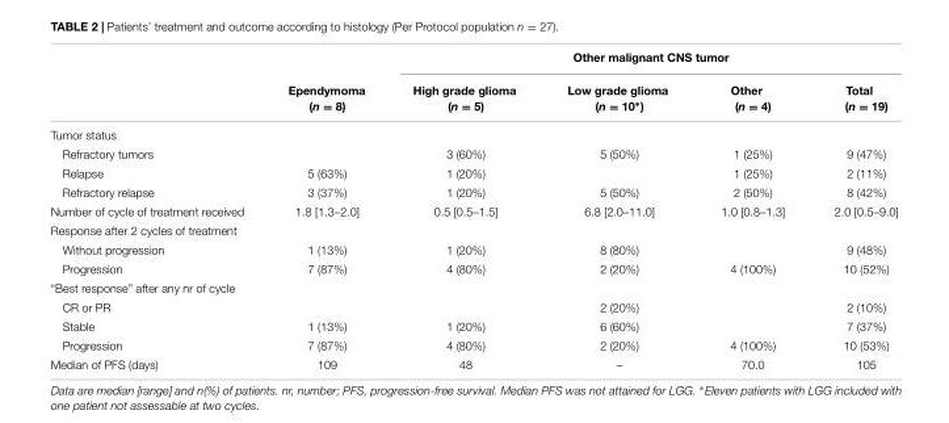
<table><thead><tr><td rowspan="2"></td><td rowspan="2">Ependymoma (n = 8)</td><td colspan="4">Other malignant CNS tumor</td></tr><tr><td>High grade glioma (n = 5)</td><td>Low grade glioma (n = 10∗)</td><td>Other (n = 4)</td><td>Total (n = 19)</td></tr></thead><tbody><tr><td colspan="6">Tumor status</td></tr><tr><td>Refractory tumors</td><td></td><td>3 (60%)</td><td>5 (50%)</td><td>1 (25%)</td><td>9 (47%)</td></tr><tr><td>Relapse</td><td>5 (63%)</td><td>1 (20%)</td><td></td><td>1 (25%)</td><td>2 (11%)</td></tr><tr><td>Refractory relapse</td><td>3 (37%)</td><td>1 (20%)</td><td>5 (50%)</td><td>2 (50%)</td><td>8 (42%)</td></tr><tr><td>Number of cycle of treatment received</td><td>1.8 [1.3–2.0]</td><td>0.5 [0.5–1.5]</td><td>6.8 [2.0–11.0]</td><td>1.0 [0.8–1.3]</td><td>2.0 [0.5–9.0]</td></tr><tr><td colspan="6">Response after 2 cycles of treatment</td></tr><tr><td>Without progression</td><td>1 (13%)</td><td>1 (20%)</td><td>8 (80%)</td><td></td><td>9 (48%)</td></tr><tr><td>Progression</td><td>7 (87%)</td><td>4 (80%)</td><td>2 (20%)</td><td>4 (100%)</td><td>10 (52%)</td></tr><tr><td colspan="6">“Best response” after any nr of cycle</td></tr><tr><td>CR or PR</td><td></td><td></td><td>2 (20%)</td><td></td><td>2 (10%)</td></tr><tr><td>Stable</td><td>1 (13%)</td><td>1 (20%)</td><td>6 (60%)</td><td></td><td>7 (37%)</td></tr><tr><td>Progression</td><td>7 (87%)</td><td>4 (80%)</td><td>2 (20%)</td><td>4 (100%)</td><td>10 (53%)</td></tr><tr><td>Median of PFS (days)</td><td>109</td><td>48</td><td>–</td><td>70.0</td><td>105</td></tr></tbody></table>